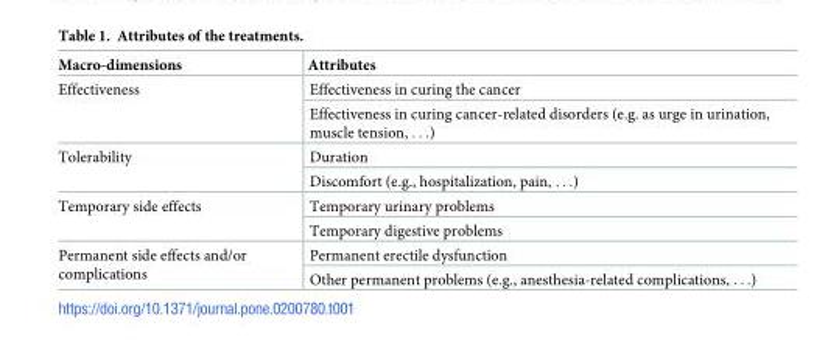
<table><thead><tr><td>Macro-dimensions</td><td>Attributes</td></tr></thead><tbody><tr><td rowspan="2">Effectiveness</td><td>Effectiveness in curing the cancer</td></tr><tr><td>Effectiveness in curing cancer-related disorders (e.g. as urge in urination, muscle tension, . . .)</td></tr><tr><td rowspan="2">Tolerability</td><td>Duration</td></tr><tr><td>Discomfort (e.g., hospitalization, pain, . . .)</td></tr><tr><td rowspan="2">Temporary side effects</td><td>Temporary urinary problems</td></tr><tr><td>Temporary digestive problems</td></tr><tr><td rowspan="2">Permanent side effects and/or complications</td><td>Permanent erectile dysfunction</td></tr><tr><td>Other permanent problems (e.g., anesthesia-related complications, . . .)</td></tr></tbody></table>